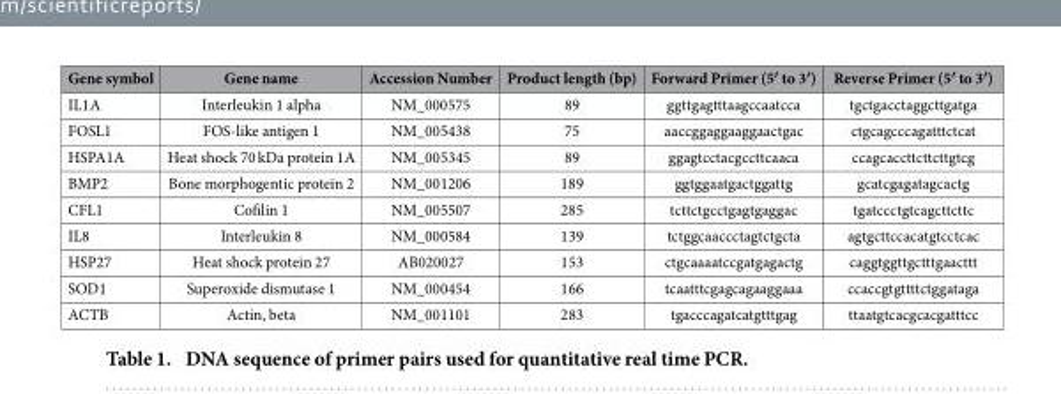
<table><thead><tr><td>Gene symbol</td><td>Gene name</td><td>Accession Number</td><td>Product length (bp)</td><td>Forward Primer (5′ to 3′)</td><td>Reverse Primer (5′ to 3′)</td></tr></thead><tbody><tr><td>IL1A</td><td>Interleukin 1 alpha</td><td>NM_000575</td><td>89</td><td>ggttgagtttaagccaatcca</td><td>tgctgacctaggcttgatga</td></tr><tr><td>FOSL1</td><td>FOS-like antigen 1</td><td>NM_005438</td><td>75</td><td>aaccggaggaaggaactgac</td><td>ctgcagcccagatttctcat</td></tr><tr><td>HSPA1A</td><td>Heat shock 70 kDa protein 1A</td><td>NM_005345</td><td>89</td><td>ggagtcctacgccttcaaca</td><td>ccagcaccttcttcttgtcg</td></tr><tr><td>BMP2</td><td>Bone morphogentic protein 2</td><td>NM_001206</td><td>189</td><td>ggtggaatgactggattg</td><td>gcatcgagatagcactg</td></tr><tr><td>CFL1</td><td>Cofilin 1</td><td>NM_005507</td><td>285</td><td>tcttctgcctgagtgaggac</td><td>tgatccctgtcagcttcttc</td></tr><tr><td>IL8</td><td>Interleukin 8</td><td>NM_000584</td><td>139</td><td>tctggcaaccctagtctgcta</td><td>agtgcttccacatgtcctcac</td></tr><tr><td>HSP27</td><td>Heat shock protein 27</td><td>AB020027</td><td>153</td><td>ctgcaaaatccgatgagactg</td><td>caggtggttgctttgaacttt</td></tr><tr><td>SOD1</td><td>Superoxide dismutase 1</td><td>NM_000454</td><td>166</td><td>tcaatttcgagcagaaggaaa</td><td>ccaccgtgttttctggataga</td></tr><tr><td>ACTB</td><td>Actin, beta</td><td>NM_001101</td><td>283</td><td>tgacccagatcatgtttgag</td><td>ttaatgtcacgcacgatttcc</td></tr></tbody></table>